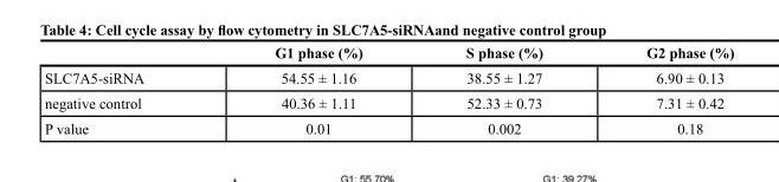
<table><thead><tr><td></td><td>G1 phase (%)</td><td>S phase (%)</td><td>G2 phase (%)</td></tr></thead><tbody><tr><td>SLC7A5-siRNA</td><td>54.55 ± 1.16</td><td>38.55 ± 1.27</td><td>6.90 ± 0.13</td></tr><tr><td>negative control</td><td>40.36 ± 1.11</td><td>52.33 ± 0.73</td><td>7.31 ± 0.42</td></tr><tr><td>P value</td><td>0.01</td><td>0.002</td><td>0.18</td></tr></tbody></table>